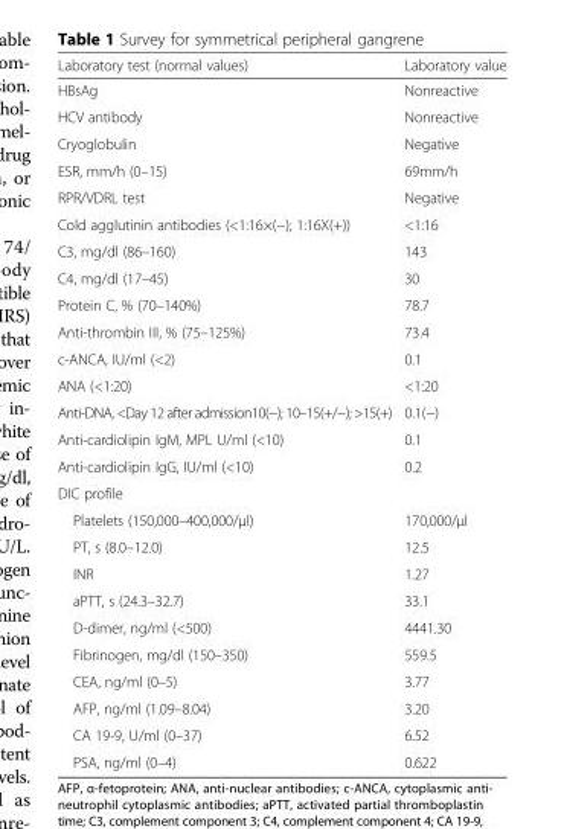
<table><thead><tr><td>Laboratory test (normal values)</td><td>Laboratory value</td></tr></thead><tbody><tr><td>HBsAg</td><td>Nonreactive</td></tr><tr><td>HCV antibody</td><td>Nonreactive</td></tr><tr><td>Cryoglobulin</td><td>Negative</td></tr><tr><td>ESR, mm/h (0–15)</td><td>69mm/h</td></tr><tr><td>RPR/VDRL test</td><td>Negative</td></tr><tr><td>Cold agglutinin antibodies (&lt;1:16×(−); 1:16X(+))</td><td>&lt;1:16</td></tr><tr><td>C3, mg/dl (86–160)</td><td>143</td></tr><tr><td>C4, mg/dl (17–45)</td><td>30</td></tr><tr><td>Protein C, % (70–140%)</td><td>78.7</td></tr><tr><td>Anti-thrombin III, % (75–125%)</td><td>73.4</td></tr><tr><td>c-ANCA, IU/ml (&lt;2)</td><td>0.1</td></tr><tr><td>ANA (&lt;1:20)</td><td>&lt;1:20</td></tr><tr><td>Anti-DNA, &lt;Day 12 after admission10(−); 10–15(+/−); &gt;15(+)</td><td>0.1(−)</td></tr><tr><td>Anti-cardiolipin IgM, MPL U/ml (&lt;10)</td><td>0.1</td></tr><tr><td>Anti-cardiolipin IgG, IU/ml (&lt;10)</td><td>0.2</td></tr><tr><td colspan="2">DIC profile</td></tr><tr><td>Platelets (150,000–400,000/μl)</td><td>170,000/μl</td></tr><tr><td>PT, s (8.0–12.0)</td><td>12.5</td></tr><tr><td>INR</td><td>1.27</td></tr><tr><td>aPTT, s (24.3–32.7)</td><td>33.1</td></tr><tr><td>D-dimer, ng/ml (&lt;500)</td><td>4441.30</td></tr><tr><td>Fibrinogen, mg/dl (150–350)</td><td>559.5</td></tr><tr><td>CEA, ng/ml (0–5)</td><td>3.77</td></tr><tr><td>AFP, ng/ml (1.09–8.04)</td><td>3.20</td></tr><tr><td>CA 19-9, U/ml (0–37)</td><td>6.52</td></tr><tr><td>PSA, ng/ml (0–4)</td><td>0.622</td></tr></tbody></table>